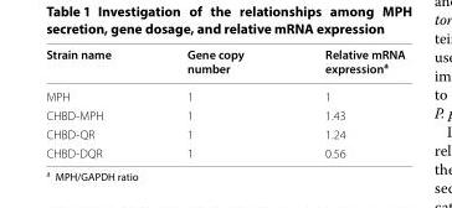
<table><thead><tr><td>Strain name</td><td>Gene copy number</td><td>Relative mRNA expression<sup>a</sup></td></tr></thead><tbody><tr><td>MPH</td><td>1</td><td>1</td></tr><tr><td>CHBD-MPH</td><td>1</td><td>1.43</td></tr><tr><td>CHBD-QR</td><td>1</td><td>1.24</td></tr><tr><td>CHBD-DQR</td><td>1</td><td>0.56</td></tr></tbody></table>